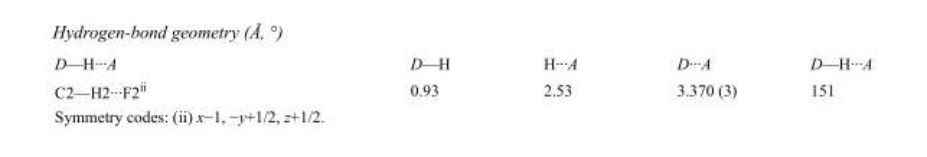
<table><tbody><tr><td>D—H···A</td><td>D—H</td><td>H···A</td><td>D···A</td><td>D—H···A</td></tr><tr><td>C2—H2···F2<sup>ii</sup></td><td>0.93</td><td>2.53</td><td>3.370 (3)</td><td>151</td></tr></tbody></table>